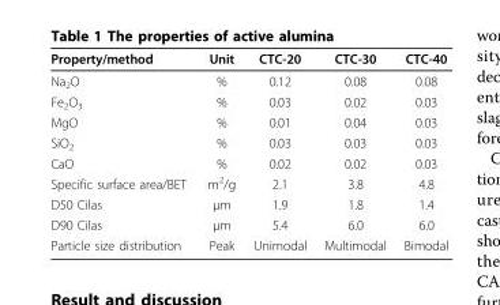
<table><thead><tr><td>Property/method</td><td>Unit</td><td>CTC-20</td><td>CTC-30</td><td>CTC-40</td></tr></thead><tbody><tr><td>Na<sub>2</sub>O</td><td>%</td><td>0.12</td><td>0.08</td><td>0.08</td></tr><tr><td>Fe<sub>2</sub>O<sub>3</sub></td><td>%</td><td>0.03</td><td>0.02</td><td>0.03</td></tr><tr><td>MgO</td><td>%</td><td>0.01</td><td>0.04</td><td>0.03</td></tr><tr><td>SiO<sub>2</sub></td><td>%</td><td>0.03</td><td>0.03</td><td>0.03</td></tr><tr><td>CaO</td><td>%</td><td>0.02</td><td>0.02</td><td>0.03</td></tr><tr><td>Specific surface area/BET</td><td>m<sup>2</sup>/g</td><td>2.1</td><td>3.8</td><td>4.8</td></tr><tr><td>D50 Cilas</td><td>μm</td><td>1.9</td><td>1.8</td><td>1.4</td></tr><tr><td>D90 Cilas</td><td>μm</td><td>5.4</td><td>6.0</td><td>6.0</td></tr><tr><td>Particle size distribution</td><td>Peak</td><td>Unimodal</td><td>Multimodal</td><td>Bimodal</td></tr></tbody></table>